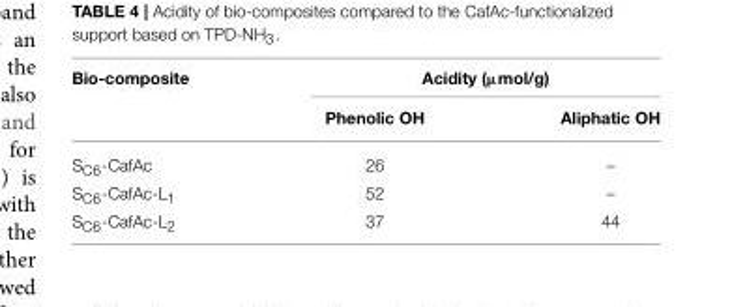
<table><thead><tr><td rowspan="2">Bio-composite</td><td colspan="2">Acidity (µmol/g)</td></tr><tr><td>Phenolic OH</td><td>Aliphatic OH</td></tr></thead><tbody><tr><td>S<sub>C6</sub>-CafAc</td><td>26</td><td>–</td></tr><tr><td>S<sub>C6</sub>-CafAc-L<sub>1</sub></td><td>52</td><td>–</td></tr><tr><td>S<sub>C6</sub>-CafAc-L<sub>2</sub></td><td>37</td><td>44</td></tr></tbody></table>